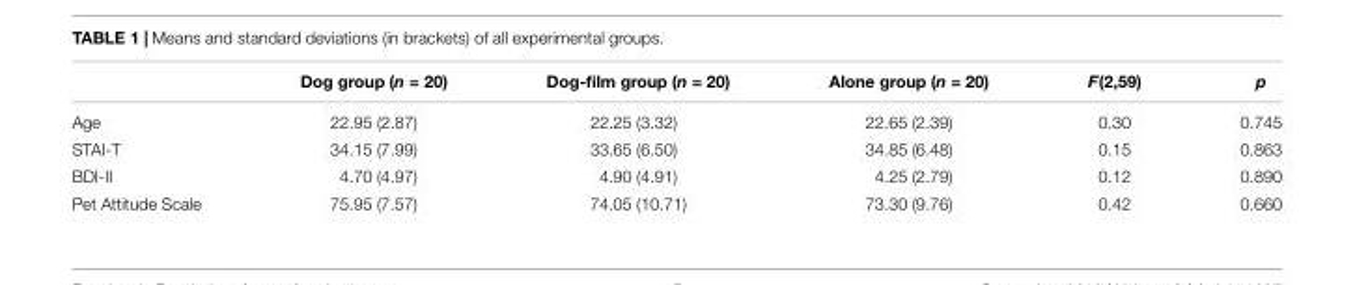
<table><thead><tr><td></td><td>Dog group (n = 20)</td><td>Dog-film group (n = 20)</td><td>Alone group (n = 20)</td><td>F(2,59)</td><td>p</td></tr></thead><tbody><tr><td>Age</td><td>22.95 (2.87)</td><td>22.25 (3.32)</td><td>22.65 (2.39)</td><td>0.30</td><td>0.745</td></tr><tr><td>STAI-T</td><td>34.15 (7.99)</td><td>33.65 (6.50)</td><td>34.85 (6.48)</td><td>0.15</td><td>0.863</td></tr><tr><td>BDI-II</td><td>4.70 (4.97)</td><td>4.90 (4.91)</td><td>4.25 (2.79)</td><td>0.12</td><td>0.890</td></tr><tr><td>Pet Attitude Scale</td><td>75.95 (7.57)</td><td>74.05 (10.71)</td><td>73.30 (9.76)</td><td>0.42</td><td>0.660</td></tr></tbody></table>